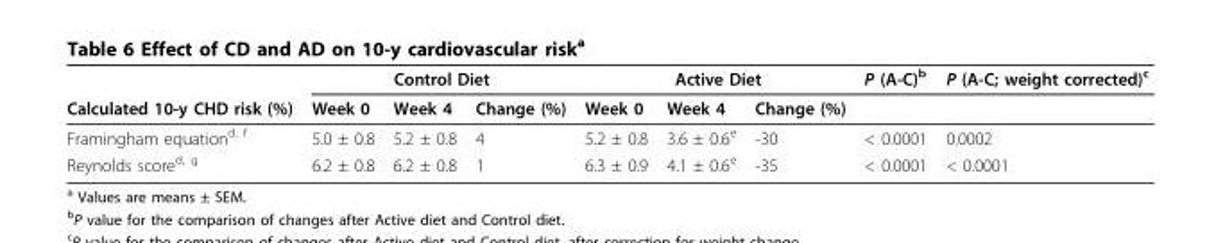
<table><thead><tr><td rowspan="2">Calculated 10-y CHD risk (%)</td><td colspan="3">Control Diet</td><td colspan="3">Active Diet</td><td rowspan="2">P (A-C)<sup>b</sup></td><td rowspan="2">P (A-C; weight corrected)<sup>c</sup></td></tr><tr><td>Week 0</td><td>Week 4</td><td>Change (%)</td><td>Week 0</td><td>Week 4</td><td>Change (%)</td></tr></thead><tbody><tr><td>Framingham equation<sup>d, f</sup></td><td>5.0 ± 0.8</td><td>5.2 ± 0.8</td><td>4</td><td>5.2 ± 0.8</td><td>3.6 ± 0.6<sup>e</sup></td><td>-30</td><td>&lt; 0.0001</td><td>0.0002</td></tr><tr><td>Reynolds score<sup>d, g</sup></td><td>6.2 ± 0.8</td><td>6.2 ± 0.8</td><td>1</td><td>6.3 ± 0.9</td><td>4.1 ± 0.6<sup>e</sup></td><td>-35</td><td>&lt; 0.0001</td><td>&lt; 0.0001</td></tr></tbody></table>